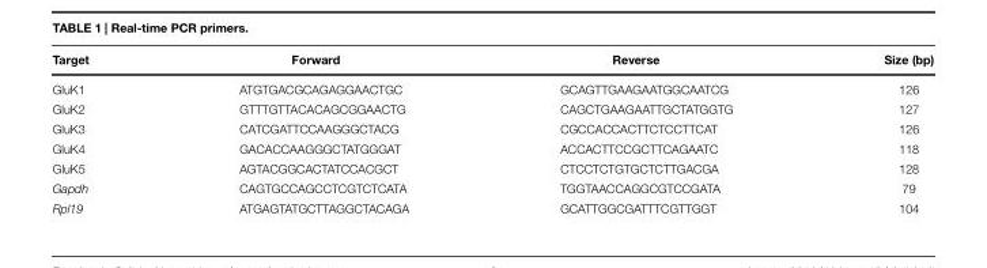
<table><thead><tr><td>Target</td><td>Forward</td><td>Reverse</td><td>Size (bp)</td></tr></thead><tbody><tr><td>GluK1</td><td>ATGTGACGCAGAGGAACTGC</td><td>GCAGTTGAAGAATGGCAATCG</td><td>126</td></tr><tr><td>GluK2</td><td>GTTTGTTACACAGCGGAACTG</td><td>CAGCTGAAGAATTGCTATGGTG</td><td>127</td></tr><tr><td>GluK3</td><td>CATCGATTCCAAGGGCTACG</td><td>CGCCACCACTTCTCCTTCAT</td><td>126</td></tr><tr><td>GluK4</td><td>GACACCAAGGGCTATGGGAT</td><td>ACCACTTCCGCTTCAGAATC</td><td>118</td></tr><tr><td>GluK5</td><td>AGTACGGCACTATCCACGCT</td><td>CTCCTCTGTGCTCTTGACGA</td><td>128</td></tr><tr><td>Gapdh</td><td>CAGTGCCAGCCTCGTCTCATA</td><td>TGGTAACCAGGCGTCCGATA</td><td>79</td></tr><tr><td>Rpl19</td><td>ATGAGTATGCTTAGGCTACAGA</td><td>GCATTGGCGATTTCGTTGGT</td><td>104</td></tr></tbody></table>